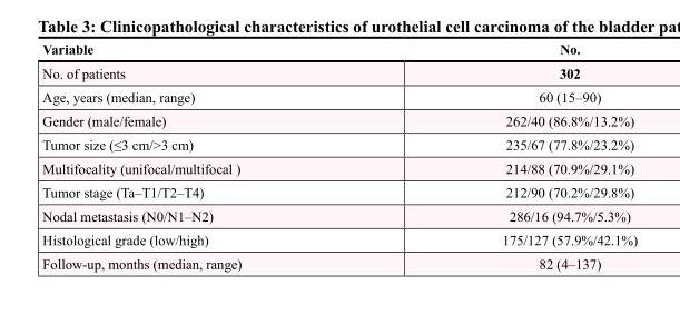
<table><thead><tr><td>Variable</td><td>No.</td></tr></thead><tbody><tr><td>No. of patients</td><td>302</td></tr><tr><td>Age, years (median, range)</td><td>60 (15–90)</td></tr><tr><td>Gender (male/female)</td><td>262/40 (86.8%/13.2%)</td></tr><tr><td>Tumor size (≤3 cm/&gt;3 cm)</td><td>235/67 (77.8%/23.2%)</td></tr><tr><td>Multifocality (unifocal/multifocal )</td><td>214/88 (70.9%/29.1%)</td></tr><tr><td>Tumor stage (Ta–T1/T2–T4)</td><td>212/90 (70.2%/29.8%)</td></tr><tr><td>Nodal metastasis (N0/N1–N2)</td><td>286/16 (94.7%/5.3%)</td></tr><tr><td>Histological grade (low/high)</td><td>175/127 (57.9%/42.1%)</td></tr><tr><td>Follow-up, months (median, range)</td><td>82 (4–137)</td></tr></tbody></table>